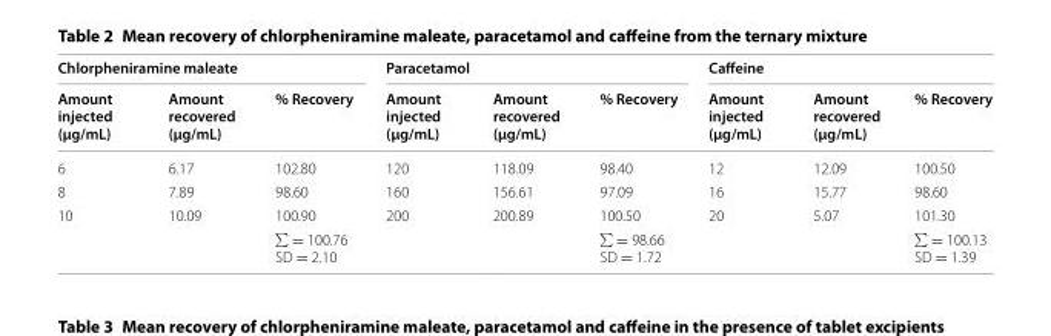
<table><thead><tr><td colspan="3">Chlorpheniramine maleate</td><td colspan="3">Paracetamol</td><td colspan="3">Caffeine</td></tr><tr><td>Amount injected (µg/mL)</td><td>Amount recovered (µg/mL)</td><td>% Recovery</td><td>Amount injected (µg/mL)</td><td>Amount recovered (µg/mL)</td><td>% Recovery</td><td>Amount injected (µg/mL)</td><td>Amount recovered (µg/mL)</td><td>% Recovery</td></tr></thead><tbody><tr><td>6</td><td>6.17</td><td>102.80</td><td>120</td><td>118.09</td><td>98.40</td><td>12</td><td>12.09</td><td>100.50</td></tr><tr><td>8</td><td>7.89</td><td>98.60</td><td>160</td><td>156.61</td><td>97.09</td><td>16</td><td>15.77</td><td>98.60</td></tr><tr><td>10</td><td>10.09</td><td>100.90</td><td>200</td><td>200.89</td><td>100.50</td><td>20</td><td>5.07</td><td>101.30</td></tr><tr><td colspan="2"></td><td>∑ = 100.76 SD = 2.10</td><td colspan="2"></td><td>∑ = 98.66 SD = 1.72</td><td colspan="2"></td><td>∑ = 100.13 SD = 1.39</td></tr></tbody></table>